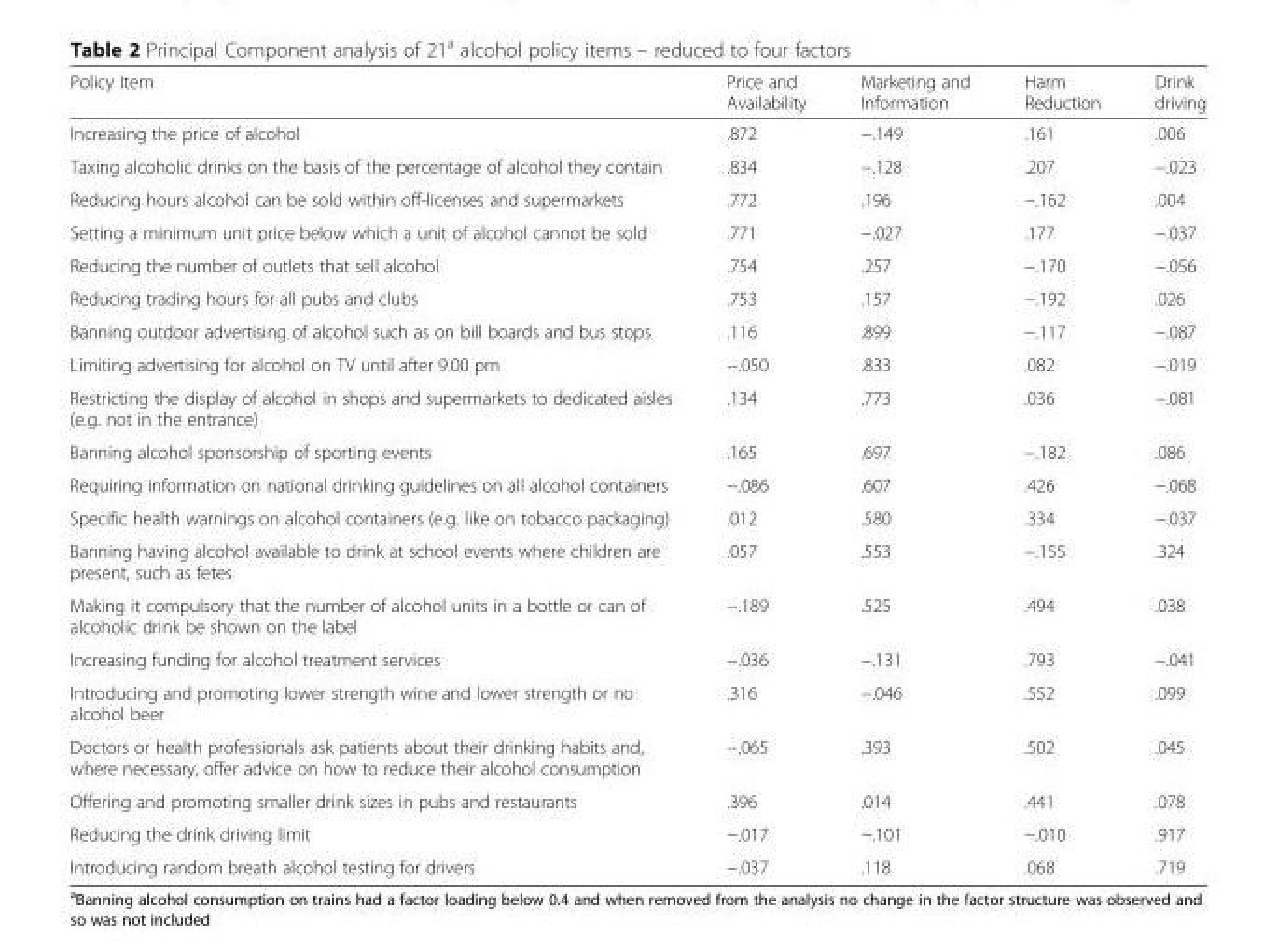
<table><thead><tr><td>Policy Item</td><td>Price and Availability</td><td>Marketing and Information</td><td>Harm Reduction</td><td>Drink driving</td></tr></thead><tbody><tr><td>Increasing the price of alcohol</td><td>.872</td><td>−.149</td><td>.161</td><td>.006</td></tr><tr><td>Taxing alcoholic drinks on the basis of the percentage of alcohol they contain</td><td>.834</td><td>−.128</td><td>.207</td><td>−.023</td></tr><tr><td>Reducing hours alcohol can be sold within off-licenses and supermarkets</td><td>.772</td><td>.196</td><td>−.162</td><td>.004</td></tr><tr><td>Setting a minimum unit price below which a unit of alcohol cannot be sold</td><td>.771</td><td>−.027</td><td>.177</td><td>−.037</td></tr><tr><td>Reducing the number of outlets that sell alcohol</td><td>.754</td><td>.257</td><td>−.170</td><td>−.056</td></tr><tr><td>Reducing trading hours for all pubs and clubs</td><td>.753</td><td>.157</td><td>−.192</td><td>.026</td></tr><tr><td>Banning outdoor advertising of alcohol such as on bill boards and bus stops</td><td>.116</td><td>.899</td><td>−.117</td><td>−.087</td></tr><tr><td>Limiting advertising for alcohol on TV until after 9.00 pm</td><td>−.050</td><td>.833</td><td>.082</td><td>−.019</td></tr><tr><td>Restricting the display of alcohol in shops and supermarkets to dedicated aisles (e.g. not in the entrance)</td><td>.134</td><td>.773</td><td>.036</td><td>−.081</td></tr><tr><td>Banning alcohol sponsorship of sporting events</td><td>.165</td><td>.697</td><td>−.182</td><td>.086</td></tr><tr><td>Requiring information on national drinking guidelines on all alcohol containers</td><td>−.086</td><td>.607</td><td>.426</td><td>−.068</td></tr><tr><td>Specific health warnings on alcohol containers (e.g. like on tobacco packaging)</td><td>.012</td><td>.580</td><td>.334</td><td>−.037</td></tr><tr><td>Banning having alcohol available to drink at school events where children are present, such as fetes</td><td>.057</td><td>.553</td><td>−.155</td><td>.324</td></tr><tr><td>Making it compulsory that the number of alcohol units in a bottle or can of alcoholic drink be shown on the label</td><td>−.189</td><td>.525</td><td>.494</td><td>.038</td></tr><tr><td>Increasing funding for alcohol treatment services</td><td>−.036</td><td>−.131</td><td>.793</td><td>−.041</td></tr><tr><td>Introducing and promoting lower strength wine and lower strength or no alcohol beer</td><td>.316</td><td>−.046</td><td>.552</td><td>.099</td></tr><tr><td>Doctors or health professionals ask patients about their drinking habits and, where necessary, offer advice on how to reduce their alcohol consumption</td><td>−.065</td><td>.393</td><td>.502</td><td>.045</td></tr><tr><td>Offering and promoting smaller drink sizes in pubs and restaurants</td><td>.396</td><td>.014</td><td>.441</td><td>.078</td></tr><tr><td>Reducing the drink driving limit</td><td>−.017</td><td>−.101</td><td>−.010</td><td>.917</td></tr><tr><td>Introducing random breath alcohol testing for drivers</td><td>−.037</td><td>.118</td><td>.068</td><td>.719</td></tr></tbody></table>